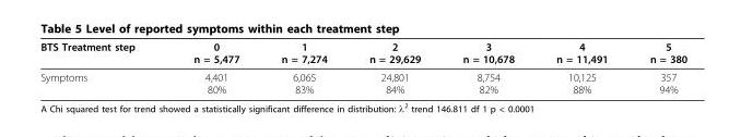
<table><thead><tr><td>BTS Treatment step</td><td>0 n = 5,477</td><td>1 n = 7,274</td><td>2 n = 29,629</td><td>3 n = 10,678</td><td>4 n = 11,491</td><td>5 n = 380</td></tr></thead><tbody><tr><td>Symptoms</td><td>4,401 80%</td><td>6,065 83%</td><td>24,801 84%</td><td>8,754 82%</td><td>10,125 88%</td><td>357 94%</td></tr></tbody></table>